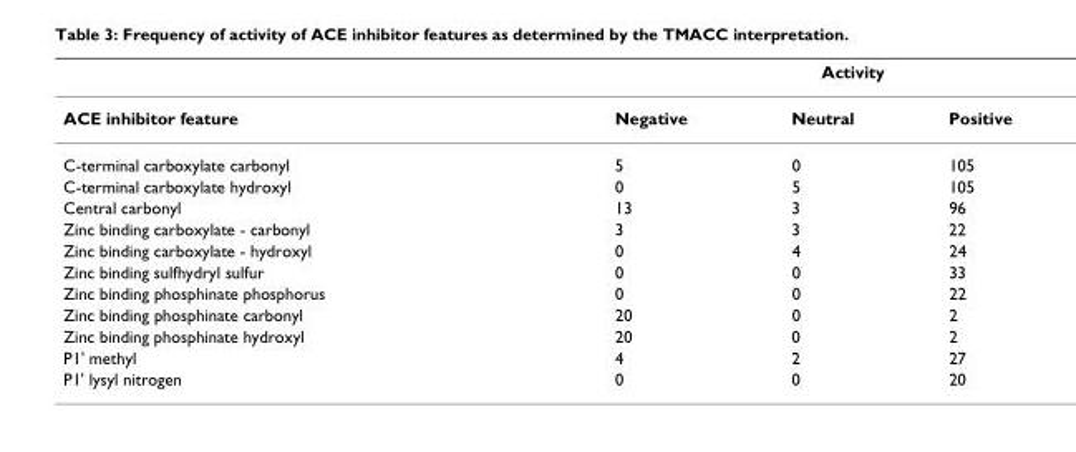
<table><thead><tr><td rowspan="2">ACE inhibitor feature</td><td colspan="3">Activity</td></tr><tr><td>Negative</td><td>Neutral</td><td>Positive</td></tr></thead><tbody><tr><td>C-terminal carboxylate carbonyl</td><td>5</td><td>0</td><td>105</td></tr><tr><td>C-terminal carboxylate hydroxyl</td><td>0</td><td>5</td><td>105</td></tr><tr><td>Central carbonyl</td><td>13</td><td>3</td><td>96</td></tr><tr><td>Zinc binding carboxylate - carbonyl</td><td>3</td><td>3</td><td>22</td></tr><tr><td>Zinc binding carboxylate - hydroxyl</td><td>0</td><td>4</td><td>24</td></tr><tr><td>Zinc binding sulfhydryl sulfur</td><td>0</td><td>0</td><td>33</td></tr><tr><td>Zinc binding phosphinate phosphorus</td><td>0</td><td>0</td><td>22</td></tr><tr><td>Zinc binding phosphinate carbonyl</td><td>20</td><td>0</td><td>2</td></tr><tr><td>Zinc binding phosphinate hydroxyl</td><td>20</td><td>0</td><td>2</td></tr><tr><td>P1&#x27; methyl</td><td>4</td><td>2</td><td>27</td></tr><tr><td>P1&#x27; lysyl nitrogen</td><td>0</td><td>0</td><td>20</td></tr></tbody></table>